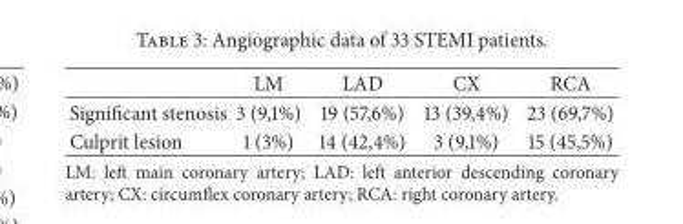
<table><thead><tr><td></td><td>LM</td><td>LAD</td><td>CX</td><td>RCA</td></tr></thead><tbody><tr><td>Significant stenosis</td><td>3 (9,1%)</td><td>19 (57,6%)</td><td>13 (39,4%)</td><td>23 (69,7%)</td></tr><tr><td>Culprit lesion</td><td>1 (3%)</td><td>14 (42,4%)</td><td>3 (9,1%)</td><td>15 (45,5%)</td></tr></tbody></table>